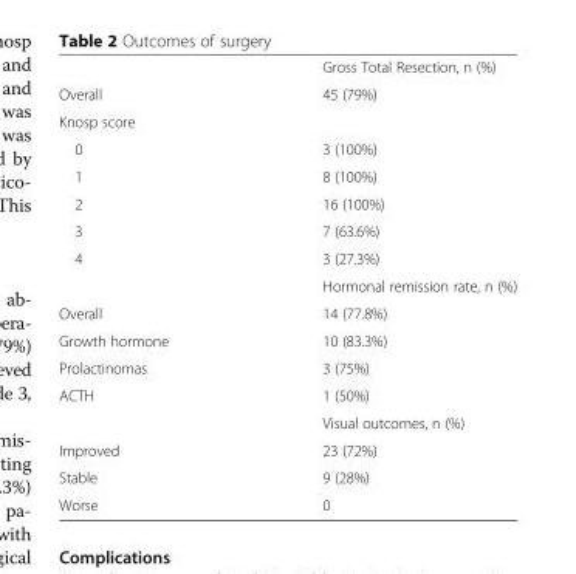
<table><thead><tr><td></td><td>Gross Total Resection, n (%)</td></tr></thead><tbody><tr><td>Overall</td><td>45 (79%)</td></tr><tr><td colspan="2">Knosp score</td></tr><tr><td>0</td><td>3 (100%)</td></tr><tr><td>1</td><td>8 (100%)</td></tr><tr><td>2</td><td>16 (100%)</td></tr><tr><td>3</td><td>7 (63.6%)</td></tr><tr><td rowspan="2">4</td><td>3 (27.3%)</td></tr><tr><td>Hormonal remission rate, n (%)</td></tr><tr><td>Overall</td><td>14 (77.8%)</td></tr><tr><td>Growth hormone</td><td>10 (83.3%)</td></tr><tr><td>Prolactinomas</td><td>3 (75%)</td></tr><tr><td rowspan="2">ACTH</td><td>1 (50%)</td></tr><tr><td>Visual outcomes, n (%)</td></tr><tr><td>Improved</td><td>23 (72%)</td></tr><tr><td>Stable</td><td>9 (28%)</td></tr><tr><td>Worse</td><td>0</td></tr></tbody></table>